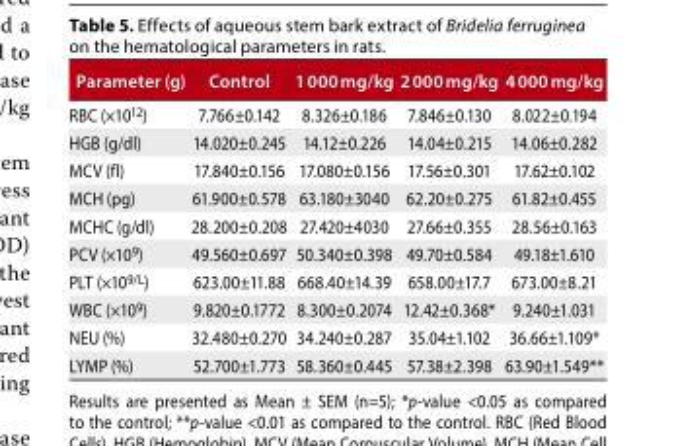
<table><thead><tr><td>Parameter (g)</td><td>Control</td><td>1 000 mg/kg</td><td>2 000 mg/kg</td><td>4 000 mg/kg</td></tr></thead><tbody><tr><td>RBC (×10<sup>12</sup>)</td><td>7.766±0.142</td><td>8.326±0.186</td><td>7.846±0.130</td><td>8.022±0.194</td></tr><tr><td>HGB (g/dl)</td><td>14.020±0.245</td><td>14.12±0.226</td><td>14.04±0.215</td><td>14.06±0.282</td></tr><tr><td>MCV (fl)</td><td>17.840±0.156</td><td>17.080±0.156</td><td>17.56±0.301</td><td>17.62±0.102</td></tr><tr><td>MCH (pg)</td><td>61.900±0.578</td><td>63.180±3040</td><td>62.20±0.275</td><td>61.82±0.455</td></tr><tr><td>MCHC (g/dl)</td><td>28.200±0.208</td><td>27.420±4030</td><td>27.66±0.355</td><td>28.56±0.163</td></tr><tr><td>PCV (×10<sup>9</sup>)</td><td>49.560±0.697</td><td>50.340±0.398</td><td>49.70±0.584</td><td>49.18±1.610</td></tr><tr><td>PLT (×10<sup>9</sup>/L)</td><td>623.00±11.88</td><td>668.40±14.39</td><td>658.00±17.7</td><td>673.00±8.21</td></tr><tr><td>WBC (×10<sup>9</sup>)</td><td>9.820±0.1772</td><td>8.300±0.2074</td><td>12.42±0.368*</td><td>9.240±1.031</td></tr><tr><td>NEU (%)</td><td>32.480±0.270</td><td>34.240±0.287</td><td>35.04±1.102</td><td>36.66±1.109*</td></tr><tr><td>LYMP (%)</td><td>52.700±1.773</td><td>58.360±0.445</td><td>57.38±2.398</td><td>63.90±1.549**</td></tr></tbody></table>